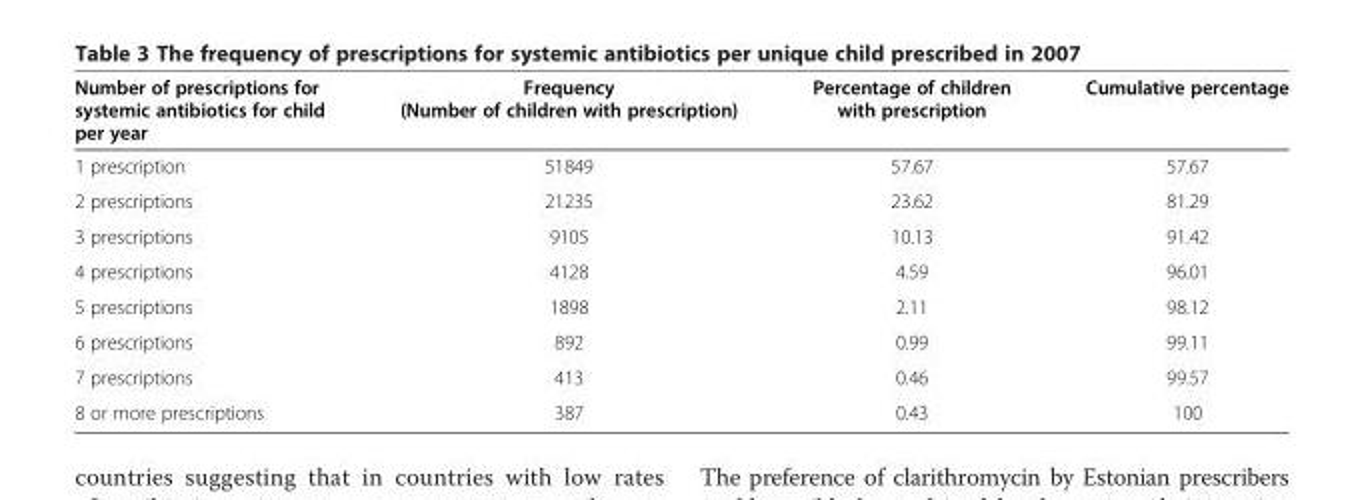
<table><thead><tr><td>Number of prescriptions for systemic antibiotics for child per year</td><td>Frequency (Number of children with prescription)</td><td>Percentage of children with prescription</td><td>Cumulative percentage</td></tr></thead><tbody><tr><td>1 prescription</td><td>51849</td><td>57.67</td><td>57.67</td></tr><tr><td>2 prescriptions</td><td>21235</td><td>23.62</td><td>81.29</td></tr><tr><td>3 prescriptions</td><td>9105</td><td>10.13</td><td>91.42</td></tr><tr><td>4 prescriptions</td><td>4128</td><td>4.59</td><td>96.01</td></tr><tr><td>5 prescriptions</td><td>1898</td><td>2.11</td><td>98.12</td></tr><tr><td>6 prescriptions</td><td>892</td><td>0.99</td><td>99.11</td></tr><tr><td>7 prescriptions</td><td>413</td><td>0.46</td><td>99.57</td></tr><tr><td>8 or more prescriptions</td><td>387</td><td>0.43</td><td>100</td></tr></tbody></table>